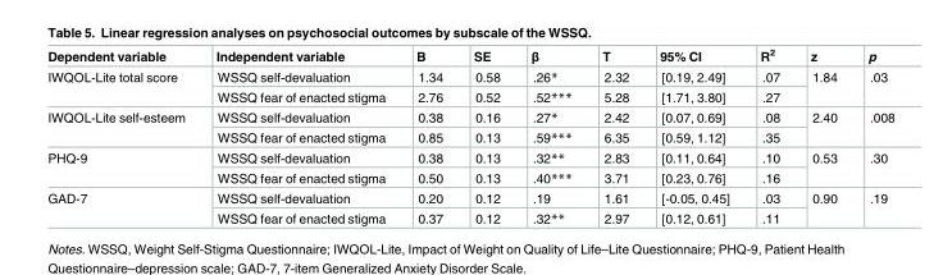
<table><thead><tr><td>Dependent variable</td><td>Independent variable</td><td>B</td><td>SE</td><td>β</td><td>T</td><td>95% CI</td><td>R<sup>2</sup></td><td>z</td><td>p</td></tr></thead><tbody><tr><td rowspan="2">IWQOL-Lite total score</td><td>WSSQ self-devaluation</td><td>1.34</td><td>0.58</td><td>.26*</td><td>2.32</td><td>[0.19, 2.49]</td><td>.07</td><td rowspan="2">1.84</td><td rowspan="2">.03</td></tr><tr><td>WSSQ fear of enacted stigma</td><td>2.76</td><td>0.52</td><td>.52***</td><td>5.28</td><td>[1.71, 3.80]</td><td>.27</td></tr><tr><td rowspan="2">IWQOL-Lite self-esteem</td><td>WSSQ self-devaluation</td><td>0.38</td><td>0.16</td><td>.27*</td><td>2.42</td><td>[0.07, 0.69]</td><td>.08</td><td rowspan="2">2.40</td><td rowspan="2">.008</td></tr><tr><td>WSSQ fear of enacted stigma</td><td>0.85</td><td>0.13</td><td>.59***</td><td>6.35</td><td>[0.59, 1.12]</td><td>.35</td></tr><tr><td rowspan="2">PHQ-9</td><td>WSSQ self-devaluation</td><td>0.38</td><td>0.13</td><td>.32**</td><td>2.83</td><td>[0.11, 0.64]</td><td>.10</td><td rowspan="2">0.53</td><td rowspan="2">.30</td></tr><tr><td>WSSQ fear of enacted stigma</td><td>0.50</td><td>0.13</td><td>.40***</td><td>3.71</td><td>[0.23, 0.76]</td><td>.16</td></tr><tr><td rowspan="2">GAD-7</td><td>WSSQ self-devaluation</td><td>0.20</td><td>0.12</td><td>.19</td><td>1.61</td><td>[-0.05, 0.45]</td><td>.03</td><td rowspan="2">0.90</td><td rowspan="2">.19</td></tr><tr><td>WSSQ fear of enacted stigma</td><td>0.37</td><td>0.12</td><td>.32**</td><td>2.97</td><td>[0.12, 0.61]</td><td>.11</td></tr></tbody></table>